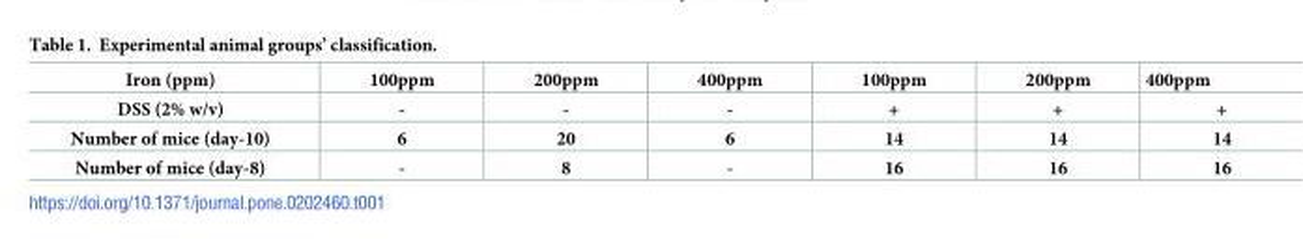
<table><thead><tr><td>Iron (ppm)</td><td>100ppm</td><td>200ppm</td><td>400ppm</td><td>100ppm</td><td>200ppm</td><td>400ppm</td></tr></thead><tbody><tr><td>DSS (2% w/v)</td><td>-</td><td>-</td><td>-</td><td>+</td><td>+</td><td>+</td></tr><tr><td>Number of mice (day-10)</td><td>6</td><td>20</td><td>6</td><td>14</td><td>14</td><td>14</td></tr><tr><td>Number of mice (day-8)</td><td>-</td><td>8</td><td>-</td><td>16</td><td>16</td><td>16</td></tr></tbody></table>